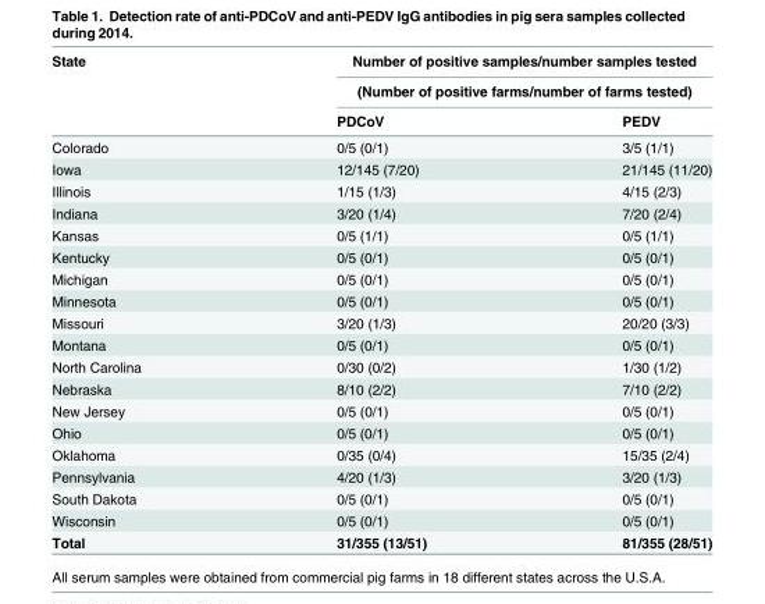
<table><thead><tr><td rowspan="3">State</td><td rowspan="2" colspan="2">Number of positive samples/number samples tested (Number of positive farms/number of farms tested)</td></tr><tr></tr><tr><td>PDCoV</td><td>PEDV</td></tr></thead><tbody><tr><td>Colorado</td><td>0/5 (0/1)</td><td>3/5 (1/1)</td></tr><tr><td>Iowa</td><td>12/145 (7/20)</td><td>21/145 (11/20)</td></tr><tr><td>Illinois</td><td>1/15 (1/3)</td><td>4/15 (2/3)</td></tr><tr><td>Indiana</td><td>3/20 (1/4)</td><td>7/20 (2/4)</td></tr><tr><td>Kansas</td><td>0/5 (1/1)</td><td>0/5 (1/1)</td></tr><tr><td>Kentucky</td><td>0/5 (0/1)</td><td>0/5 (0/1)</td></tr><tr><td>Michigan</td><td>0/5 (0/1)</td><td>0/5 (0/1)</td></tr><tr><td>Minnesota</td><td>0/5 (0/1)</td><td>0/5 (0/1)</td></tr><tr><td>Missouri</td><td>3/20 (1/3)</td><td>20/20 (3/3)</td></tr><tr><td>Montana</td><td>0/5 (0/1)</td><td>0/5 (0/1)</td></tr><tr><td>North Carolina</td><td>0/30 (0/2)</td><td>1/30 (1/2)</td></tr><tr><td>Nebraska</td><td>8/10 (2/2)</td><td>7/10 (2/2)</td></tr><tr><td>New Jersey</td><td>0/5 (0/1)</td><td>0/5 (0/1)</td></tr><tr><td>Ohio</td><td>0/5 (0/1)</td><td>0/5 (0/1)</td></tr><tr><td>Oklahoma</td><td>0/35 (0/4)</td><td>15/35 (2/4)</td></tr><tr><td>Pennsylvania</td><td>4/20 (1/3)</td><td>3/20 (1/3)</td></tr><tr><td>South Dakota</td><td>0/5 (0/1)</td><td>0/5 (0/1)</td></tr><tr><td>Wisconsin</td><td>0/5 (0/1)</td><td>0/5 (0/1)</td></tr><tr><td>Total</td><td>31/355 (13/51)</td><td>81/355 (28/51)</td></tr></tbody></table>